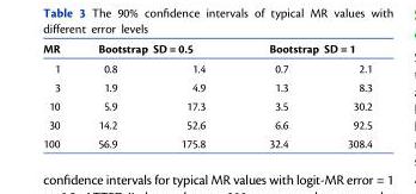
<table><thead><tr><td rowspan="2">MR 1</td><td colspan="2">Bootstrap SD = 0.5</td><td colspan="2">Bootstrap SD = 1</td></tr><tr><td>0.8</td><td>1.4</td><td>0.7</td><td>2.1</td></tr></thead><tbody><tr><td>3</td><td>1.9</td><td>4.9</td><td>1.3</td><td>8.3</td></tr><tr><td>10</td><td>5.9</td><td>17.3</td><td>3.5</td><td>30.2</td></tr><tr><td>30</td><td>14.2</td><td>52.6</td><td>6.6</td><td>92.5</td></tr><tr><td>100</td><td>56.9</td><td>175.8</td><td>32.4</td><td>308.4</td></tr></tbody></table>